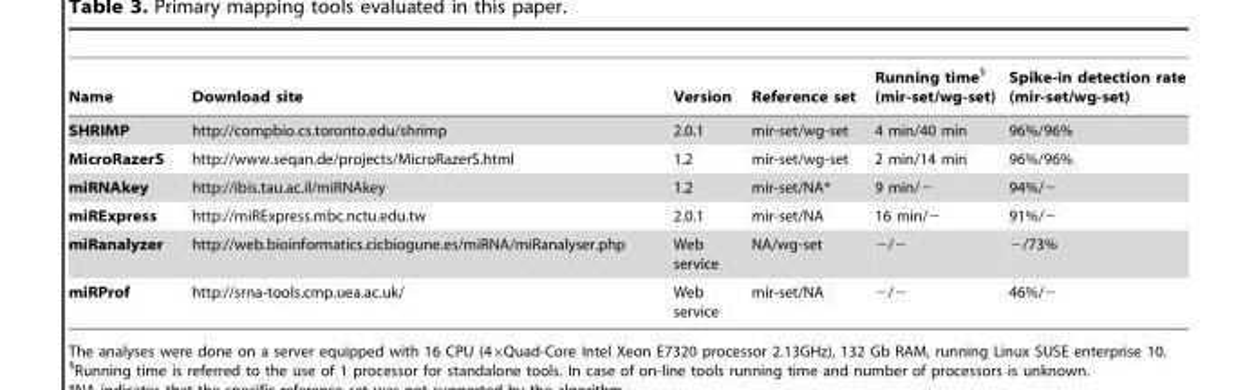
<table><thead><tr><td>Name</td><td>Download site</td><td>Version</td><td>Reference set</td><td>Running time§ (mir-set/wg-set)</td><td>Spike-in detection rate (mir-set/wg-set)</td></tr></thead><tbody><tr><td>SHRIMP</td><td>http://compbio.cs.toronto.edu/shrimp</td><td>2.0.1</td><td>mir-set/wg-set</td><td>4 min/40 min</td><td>96%/96%</td></tr><tr><td>MicroRazerS</td><td>http://www.seqan.de/projects/MicroRazerS.html</td><td>1.2</td><td>mir-set/wg-set</td><td>2 min/14 min</td><td>96%/96%</td></tr><tr><td>miRNAkey</td><td>http://ibis.tau.ac.il/miRNAkey</td><td>1.2</td><td>mir-set/NA*</td><td>9 min/−</td><td>94%/−</td></tr><tr><td>miRExpress</td><td>http://miRExpress.mbc.nctu.edu.tw</td><td>2.0.1</td><td>mir-set/NA</td><td>16 min/−</td><td>91%/−</td></tr><tr><td>miRanalyzer</td><td>http://web.bioinformatics.cicbiogune.es/miRNA/miRanalyser.php</td><td>Web service</td><td>NA/wg-set</td><td>−/−</td><td>−/73%</td></tr><tr><td>miRProf</td><td>http://srna-tools.cmp.uea.ac.uk/</td><td>Web service</td><td>mir-set/NA</td><td>−/−</td><td>46%/−</td></tr></tbody></table>